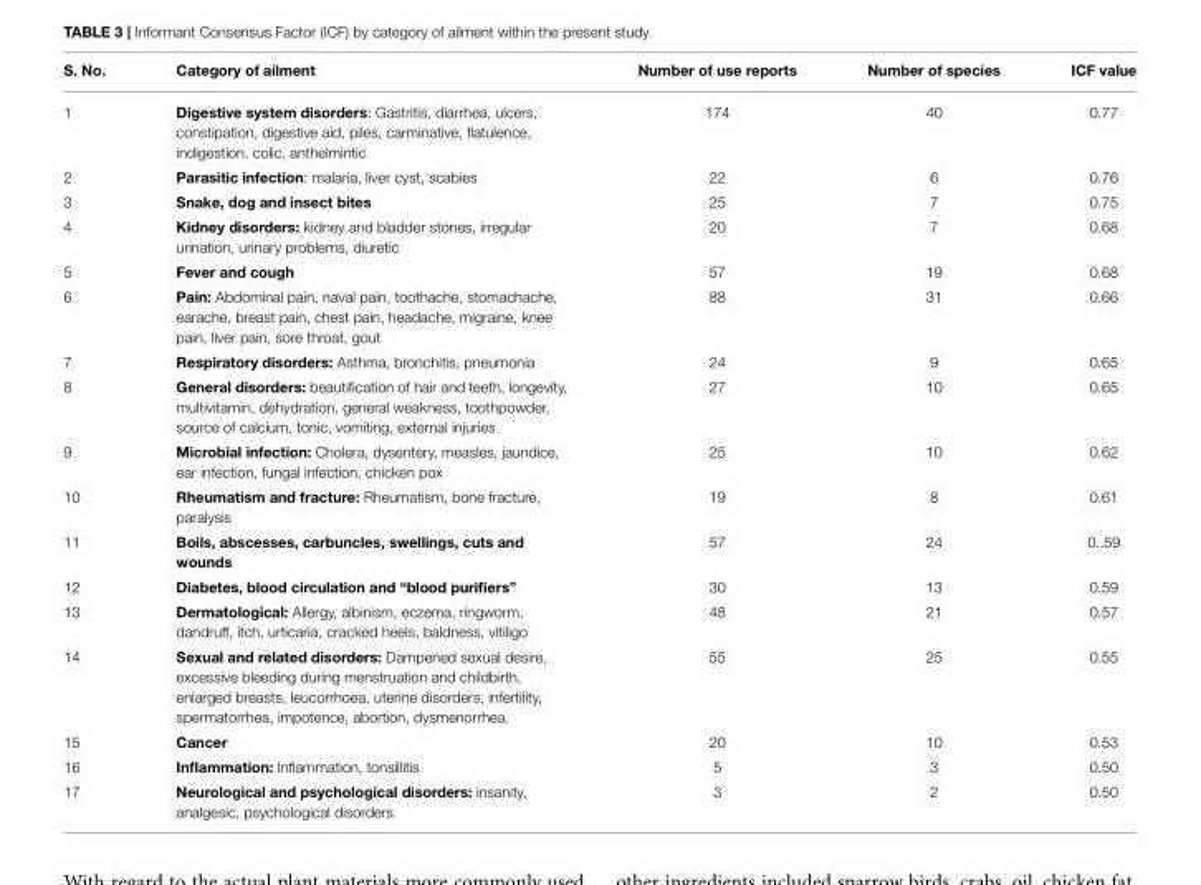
<table><thead><tr><td>S. No.</td><td>Category of ailment</td><td>Number of use reports</td><td>Number of species</td><td>ICF value</td></tr></thead><tbody><tr><td>1</td><td>Digestive system disorders: Gastritis, diarrhea, ulcers, constipation, digestive aid, piles, carminative, flatulence, indigestion, colic, anthelmintic</td><td>174</td><td>40</td><td>0.77</td></tr><tr><td>2</td><td>Parasitic infection: malaria, liver cyst, scabies</td><td>22</td><td>6</td><td>0.76</td></tr><tr><td>3</td><td>Snake, dog and insect bites</td><td>25</td><td>7</td><td>0.75</td></tr><tr><td>4</td><td>Kidney disorders: kidney and bladder stones, irregular urination, urinary problems, diuretic</td><td>20</td><td>7</td><td>0.68</td></tr><tr><td>5</td><td>Fever and cough</td><td>57</td><td>19</td><td>0.68</td></tr><tr><td>6</td><td>Pain: Abdominal pain, naval pain, toothache, stomachache, earache, breast pain, chest pain, headache, migraine, knee pain, liver pain, sore throat, gout</td><td>88</td><td>31</td><td>0.66</td></tr><tr><td>7</td><td>Respiratory disorders: Asthma, bronchitis, pneumonia</td><td>24</td><td>9</td><td>0.65</td></tr><tr><td>8</td><td>General disorders: beautification of hair and teeth, longevity, multivitamin, dehydration, general weakness, toothpowder, source of calcium, tonic, vomiting, external injuries</td><td>27</td><td>10</td><td>0.65</td></tr><tr><td>9</td><td>Microbial infection: Cholera, dysentery, measles, jaundice, ear infection, fungal infection, chicken pox</td><td>25</td><td>10</td><td>0.62</td></tr><tr><td>10</td><td>Rheumatism and fracture: Rheumatism, bone fracture, paralysis</td><td>19</td><td>8</td><td>0.61</td></tr><tr><td>11</td><td>Boils, abscesses, carbuncles, swellings, cuts and wounds</td><td>57</td><td>24</td><td>0..59</td></tr><tr><td>12</td><td>Diabetes, blood circulation and “blood purifiers”</td><td>30</td><td>13</td><td>0.59</td></tr><tr><td>13</td><td>Dermatological: Allergy, albinism, eczema, ringworm, dandruff, itch, urticaria, cracked heels, baldness, vitiligo</td><td>48</td><td>21</td><td>0.57</td></tr><tr><td>14</td><td>Sexual and related disorders: Dampened sexual desire, excessive bleeding during menstruation and childbirth, enlarged breasts, leucorrhoea, uterine disorders, infertility, spermatorrhea, impotence, abortion, dysmenorrhea.</td><td>55</td><td>25</td><td>0.55</td></tr><tr><td>15</td><td>Cancer</td><td>20</td><td>10</td><td>0.53</td></tr><tr><td>16</td><td>Inflammation: Inflammation, tonsillitis</td><td>5</td><td>3</td><td>0.50</td></tr><tr><td>17</td><td>Neurological and psychological disorders: insanity, analgesic, psychological disorders</td><td>3</td><td>2</td><td>0.50</td></tr></tbody></table>